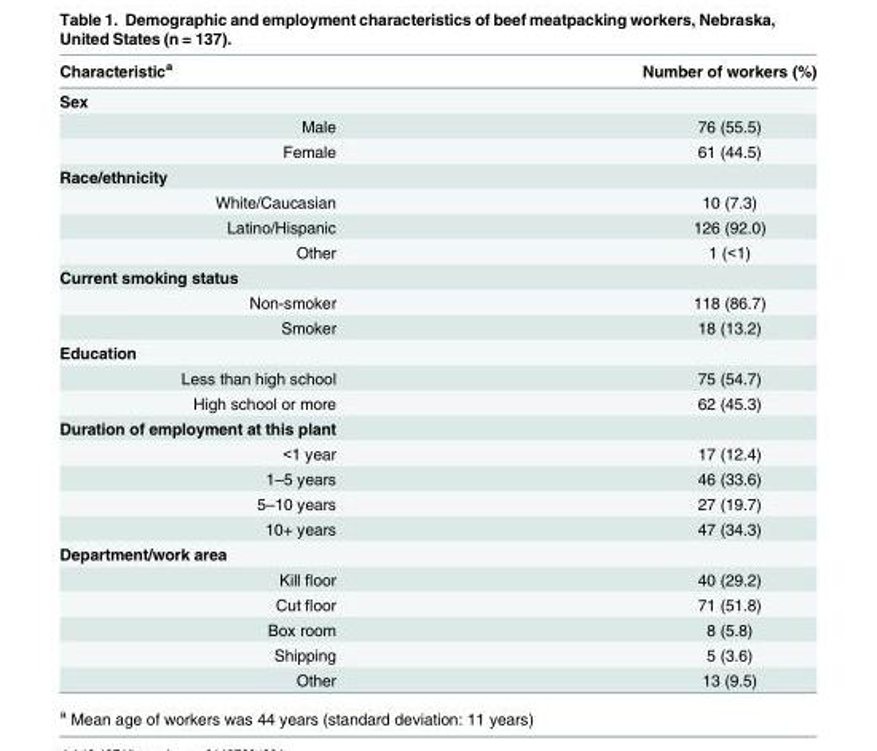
<table><thead><tr><td>Characteristic<sup>a</sup></td><td>Number of workers (%)</td></tr></thead><tbody><tr><td colspan="2">Sex</td></tr><tr><td>Male</td><td>76 (55.5)</td></tr><tr><td>Female</td><td>61 (44.5)</td></tr><tr><td colspan="2">Race/ethnicity</td></tr><tr><td>White/Caucasian</td><td>10 (7.3)</td></tr><tr><td>Latino/Hispanic</td><td>126 (92.0)</td></tr><tr><td>Other</td><td>1 (&lt;1)</td></tr><tr><td colspan="2">Current smoking status</td></tr><tr><td>Non-smoker</td><td>118 (86.7)</td></tr><tr><td>Smoker</td><td>18 (13.2)</td></tr><tr><td colspan="2">Education</td></tr><tr><td>Less than high school</td><td>75 (54.7)</td></tr><tr><td>High school or more</td><td>62 (45.3)</td></tr><tr><td colspan="2">Duration of employment at this plant</td></tr><tr><td>&lt;1 year</td><td>17 (12.4)</td></tr><tr><td>1–5 years</td><td>46 (33.6)</td></tr><tr><td>5–10 years</td><td>27 (19.7)</td></tr><tr><td>10+ years</td><td>47 (34.3)</td></tr><tr><td colspan="2">Department/work area</td></tr><tr><td>Kill floor</td><td>40 (29.2)</td></tr><tr><td>Cut floor</td><td>71 (51.8)</td></tr><tr><td>Box room</td><td>8 (5.8)</td></tr><tr><td>Shipping</td><td>5 (3.6)</td></tr><tr><td>Other</td><td>13 (9.5)</td></tr></tbody></table>